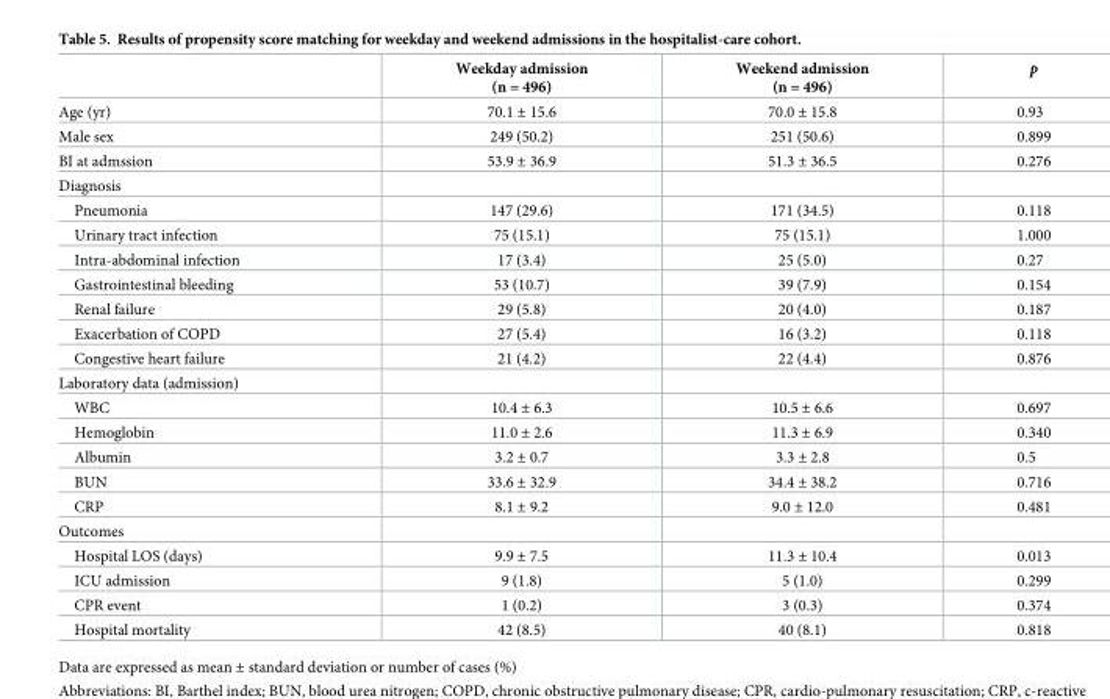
<table><thead><tr><td></td><td>Weekday admission (n = 496)</td><td>Weekend admission (n = 496)</td><td>p</td></tr></thead><tbody><tr><td>Age (yr)</td><td>70.1 ± 15.6</td><td>70.0 ± 15.8</td><td>0.93</td></tr><tr><td>Male sex</td><td>249 (50.2)</td><td>251 (50.6)</td><td>0.899</td></tr><tr><td>BI at admssion</td><td>53.9 ± 36.9</td><td>51.3 ± 36.5</td><td>0.276</td></tr><tr><td colspan="4">Diagnosis</td></tr><tr><td>Pneumonia</td><td>147 (29.6)</td><td>171 (34.5)</td><td>0.118</td></tr><tr><td>Urinary tract infection</td><td>75 (15.1)</td><td>75 (15.1)</td><td>1.000</td></tr><tr><td>Intra-abdominal infection</td><td>17 (3.4)</td><td>25 (5.0)</td><td>0.27</td></tr><tr><td>Gastrointestinal bleeding</td><td>53 (10.7)</td><td>39 (7.9)</td><td>0.154</td></tr><tr><td>Renal failure</td><td>29 (5.8)</td><td>20 (4.0)</td><td>0.187</td></tr><tr><td>Exacerbation of COPD</td><td>27 (5.4)</td><td>16 (3.2)</td><td>0.118</td></tr><tr><td>Congestive heart failure</td><td>21 (4.2)</td><td>22 (4.4)</td><td>0.876</td></tr><tr><td colspan="4">Laboratory data (admission)</td></tr><tr><td>WBC</td><td>10.4 ± 6.3</td><td>10.5 ± 6.6</td><td>0.697</td></tr><tr><td>Hemoglobin</td><td>11.0 ± 2.6</td><td>11.3 ± 6.9</td><td>0.340</td></tr><tr><td>Albumin</td><td>3.2 ± 0.7</td><td>3.3 ± 2.8</td><td>0.5</td></tr><tr><td>BUN</td><td>33.6 ± 32.9</td><td>34.4 ± 38.2</td><td>0.716</td></tr><tr><td>CRP</td><td>8.1 ± 9.2</td><td>9.0 ± 12.0</td><td>0.481</td></tr><tr><td colspan="4">Outcomes</td></tr><tr><td>Hospital LOS (days)</td><td>9.9 ± 7.5</td><td>11.3 ± 10.4</td><td>0.013</td></tr><tr><td>ICU admission</td><td>9 (1.8)</td><td>5 (1.0)</td><td>0.299</td></tr><tr><td>CPR event</td><td>1 (0.2)</td><td>3 (0.3)</td><td>0.374</td></tr><tr><td>Hospital mortality</td><td>42 (8.5)</td><td>40 (8.1)</td><td>0.818</td></tr></tbody></table>